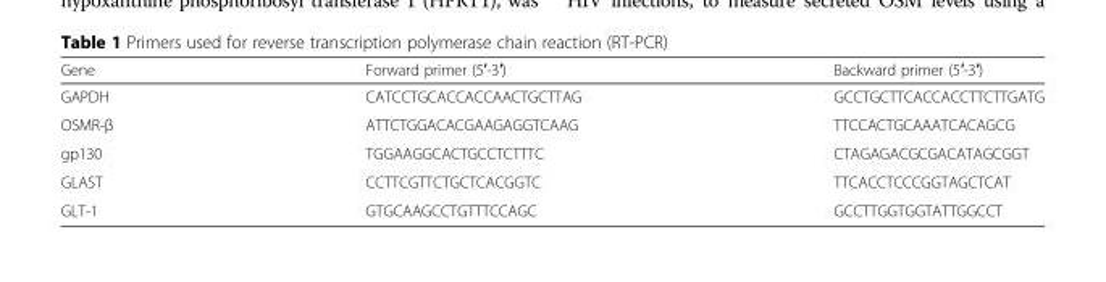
<table><thead><tr><td>Gene</td><td>Forward primer (5′-3′)</td><td>Backward primer (5′-3′)</td></tr></thead><tbody><tr><td>GAPDH</td><td>CATCCTGCACCACCAACTGCTTAG</td><td>GCCTGCTTCACCACCTTCTTGATG</td></tr><tr><td>OSMR-β</td><td>ATTCTGGACACGAAGAGGTCAAG</td><td>TTCCACTGCAAATCACAGCG</td></tr><tr><td>gp130</td><td>TGGAAGGCACTGCCTCTTTC</td><td>CTAGAGACGCGACATAGCGGT</td></tr><tr><td>GLAST</td><td>CCTTCGTTCTGCTCACGGTC</td><td>TTCACCTCCCGGTAGCTCAT</td></tr><tr><td>GLT-1</td><td>GTGCAAGCCTGTTTCCAGC</td><td>GCCTTGGTGGTATTGGCCT</td></tr></tbody></table>